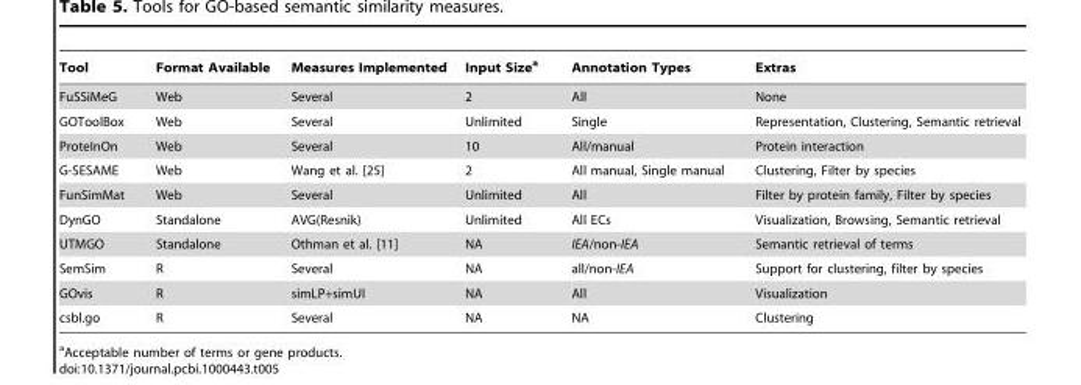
<table><thead><tr><td>Tool</td><td>Format Available</td><td>Measures Implemented</td><td>Input Size<sup>a</sup></td><td>Annotation Types</td><td>Extras</td></tr></thead><tbody><tr><td>FuSSiMeG</td><td>Web</td><td>Several</td><td>2</td><td>All</td><td>None</td></tr><tr><td>GOToolBox</td><td>Web</td><td>Several</td><td>Unlimited</td><td>Single</td><td>Representation, Clustering, Semantic retrieval</td></tr><tr><td>ProteInOn</td><td>Web</td><td>Several</td><td>10</td><td>All/manual</td><td>Protein interaction</td></tr><tr><td>G-SESAME</td><td>Web</td><td>Wang et al. [25]</td><td>2</td><td>All manual, Single manual</td><td>Clustering, Filter by species</td></tr><tr><td>FunSimMat</td><td>Web</td><td>Several</td><td>Unlimited</td><td>All</td><td>Filter by protein family, Filter by species</td></tr><tr><td>DynGO</td><td>Standalone</td><td>AVG(Resnik)</td><td>Unlimited</td><td>All ECs</td><td>Visualization, Browsing, Semantic retrieval</td></tr><tr><td>UTMGO</td><td>Standalone</td><td>Othman et al. [11]</td><td>NA</td><td>IEA/non-IEA</td><td>Semantic retrieval of terms</td></tr><tr><td>SemSim</td><td>R</td><td>Several</td><td>NA</td><td>all/non-IEA</td><td>Support for clustering, filter by species</td></tr><tr><td>GOvis</td><td>R</td><td>simLP+simUI</td><td>NA</td><td>All</td><td>Visualization</td></tr><tr><td>csbl.go</td><td>R</td><td>Several</td><td>NA</td><td>NA</td><td>Clustering</td></tr></tbody></table>